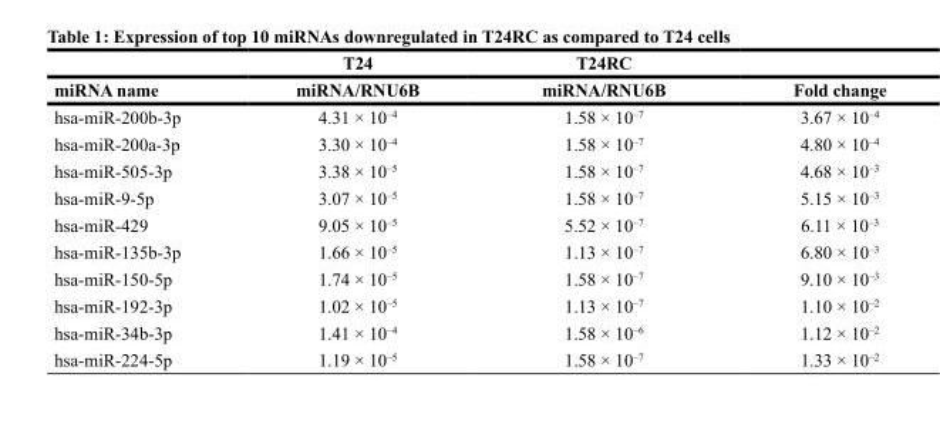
<table><thead><tr><td rowspan="2">miRNA name</td><td rowspan="2">T24 miRNA/RNU6B</td><td rowspan="2">T24RC miRNA/RNU6B</td><td rowspan="2">Fold change</td></tr><tr></tr></thead><tbody><tr><td>hsa-miR-200b-3p</td><td>4.31 × 10<sup>–4</sup></td><td>1.58 × 10<sup>–7</sup></td><td>3.67 × 10<sup>–4</sup></td></tr><tr><td>hsa-miR-200a-3p</td><td>3.30 × 10<sup>–4</sup></td><td>1.58 × 10<sup>–7</sup></td><td>4.80 × 10<sup>–4</sup></td></tr><tr><td>hsa-miR-505-3p</td><td>3.38 × 10<sup>–5</sup></td><td>1.58 × 10<sup>–7</sup></td><td>4.68 × 10<sup>–3</sup></td></tr><tr><td>hsa-miR-9-5p</td><td>3.07 × 10<sup>–5</sup></td><td>1.58 × 10<sup>–7</sup></td><td>5.15 × 10<sup>–3</sup></td></tr><tr><td>hsa-miR-429</td><td>9.05 × 10<sup>–5</sup></td><td>5.52 × 10<sup>–7</sup></td><td>6.11 × 10<sup>–3</sup></td></tr><tr><td>hsa-miR-135b-3p</td><td>1.66 × 10<sup>–5</sup></td><td>1.13 × 10<sup>–7</sup></td><td>6.80 × 10<sup>–3</sup></td></tr><tr><td>hsa-miR-150-5p</td><td>1.74 × 10<sup>–5</sup></td><td>1.58 × 10<sup>–7</sup></td><td>9.10 × 10<sup>–3</sup></td></tr><tr><td>hsa-miR-192-3p</td><td>1.02 × 10<sup>–5</sup></td><td>1.13 × 10<sup>–7</sup></td><td>1.10 × 10<sup>–2</sup></td></tr><tr><td>hsa-miR-34b-3p</td><td>1.41 × 10<sup>–4</sup></td><td>1.58 × 10<sup>–6</sup></td><td>1.12 × 10<sup>–2</sup></td></tr><tr><td>hsa-miR-224-5p</td><td>1.19 × 10<sup>–5</sup></td><td>1.58 × 10<sup>–7</sup></td><td>1.33 × 10<sup>–2</sup></td></tr></tbody></table>